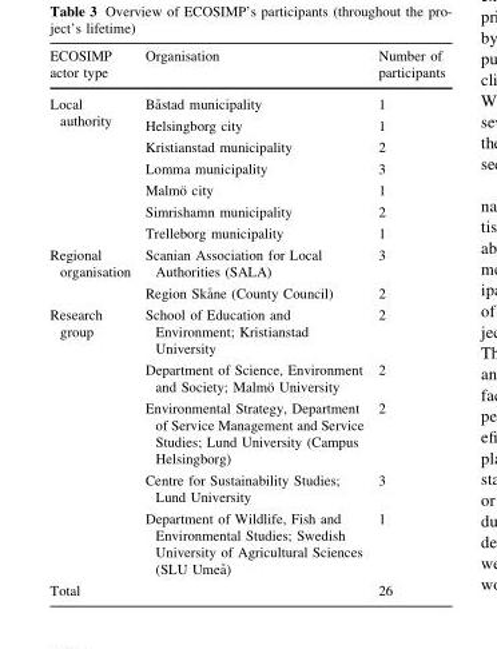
<table><thead><tr><td>ECOSIMP actor type</td><td>Organisation</td><td>Number of participants</td></tr></thead><tbody><tr><td rowspan="7">Local authority</td><td>Ba˚stad municipality</td><td>1</td></tr><tr><td>Helsingborg city</td><td>1</td></tr><tr><td>Kristianstad municipality</td><td>2</td></tr><tr><td>Lomma municipality</td><td>3</td></tr><tr><td>Malmo¨ city</td><td>1</td></tr><tr><td>Simrishamn municipality</td><td>2</td></tr><tr><td>Trelleborg municipality</td><td>1</td></tr><tr><td rowspan="2">Regional organisation</td><td>Scanian Association for Local Authorities (SALA)</td><td>3</td></tr><tr><td>Region Ska˚ne (County Council)</td><td>2</td></tr><tr><td rowspan="5">Research group</td><td>School of Education and Environment; Kristianstad University</td><td>2</td></tr><tr><td>Department of Science, Environment and Society; Malmo¨ University</td><td>2</td></tr><tr><td>Environmental Strategy, Department of Service Management and Service Studies; Lund University (Campus Helsingborg)</td><td>2</td></tr><tr><td>Centre for Sustainability Studies; Lund University</td><td>3</td></tr><tr><td>Department of Wildlife, Fish and Environmental Studies; Swedish University of Agricultural Sciences (SLU Umea˚)</td><td>1</td></tr><tr><td>Total</td><td></td><td>26</td></tr></tbody></table>